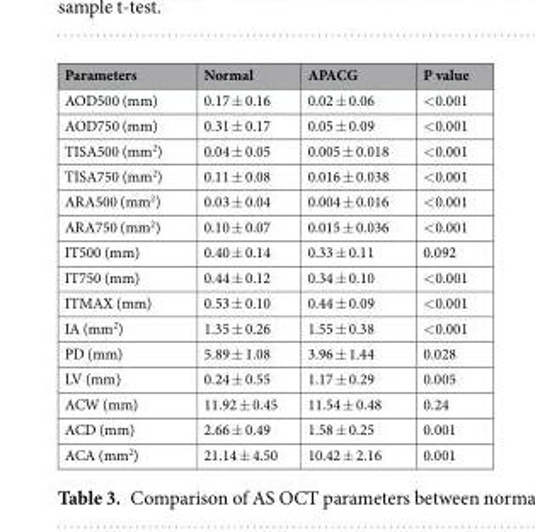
<table><thead><tr><td>Parameters</td><td>Normal</td><td>APACG</td><td>P value</td></tr></thead><tbody><tr><td>AOD500 (mm)</td><td>0.17 ± 0.16</td><td>0.02 ± 0.06</td><td>&lt;0.001</td></tr><tr><td>AOD750 (mm)</td><td>0.31 ± 0.17</td><td>0.05 ± 0.09</td><td>&lt;0.001</td></tr><tr><td>TISA500 (mm<sup>2</sup>)</td><td>0.04 ± 0.05</td><td>0.005 ± 0.018</td><td>&lt;0.001</td></tr><tr><td>TISA750 (mm<sup>2</sup>)</td><td>0.11 ± 0.08</td><td>0.016 ± 0.038</td><td>&lt;0.001</td></tr><tr><td>ARA500 (mm<sup>2</sup>)</td><td>0.03 ± 0.04</td><td>0.004 ± 0.016</td><td>&lt;0.001</td></tr><tr><td>ARA750 (mm<sup>2</sup>)</td><td>0.10 ± 0.07</td><td>0.015 ± 0.036</td><td>&lt;0.001</td></tr><tr><td>IT500 (mm)</td><td>0.40 ± 0.14</td><td>0.33 ± 0.11</td><td>0.092</td></tr><tr><td>IT750 (mm)</td><td>0.44 ± 0.12</td><td>0.34 ± 0.10</td><td>&lt;0.001</td></tr><tr><td>ITMAX (mm)</td><td>0.53 ± 0.10</td><td>0.44 ± 0.09</td><td>&lt;0.001</td></tr><tr><td>IA (mm<sup>2</sup>)</td><td>1.35 ± 0.26</td><td>1.55 ± 0.38</td><td>&lt;0.001</td></tr><tr><td>PD (mm)</td><td>5.89 ± 1.08</td><td>3.96 ± 1.44</td><td>0.028</td></tr><tr><td>LV (mm)</td><td>0.24 ± 0.55</td><td>1.17 ± 0.29</td><td>0.005</td></tr><tr><td>ACW (mm)</td><td>11.92 ± 0.45</td><td>11.54 ± 0.48</td><td>0.24</td></tr><tr><td>ACD (mm)</td><td>2.66 ± 0.49</td><td>1.58 ± 0.25</td><td>0.001</td></tr><tr><td>ACA (mm<sup>2</sup>)</td><td>21.14 ± 4.50</td><td>10.42 ± 2.16</td><td>0.001</td></tr></tbody></table>